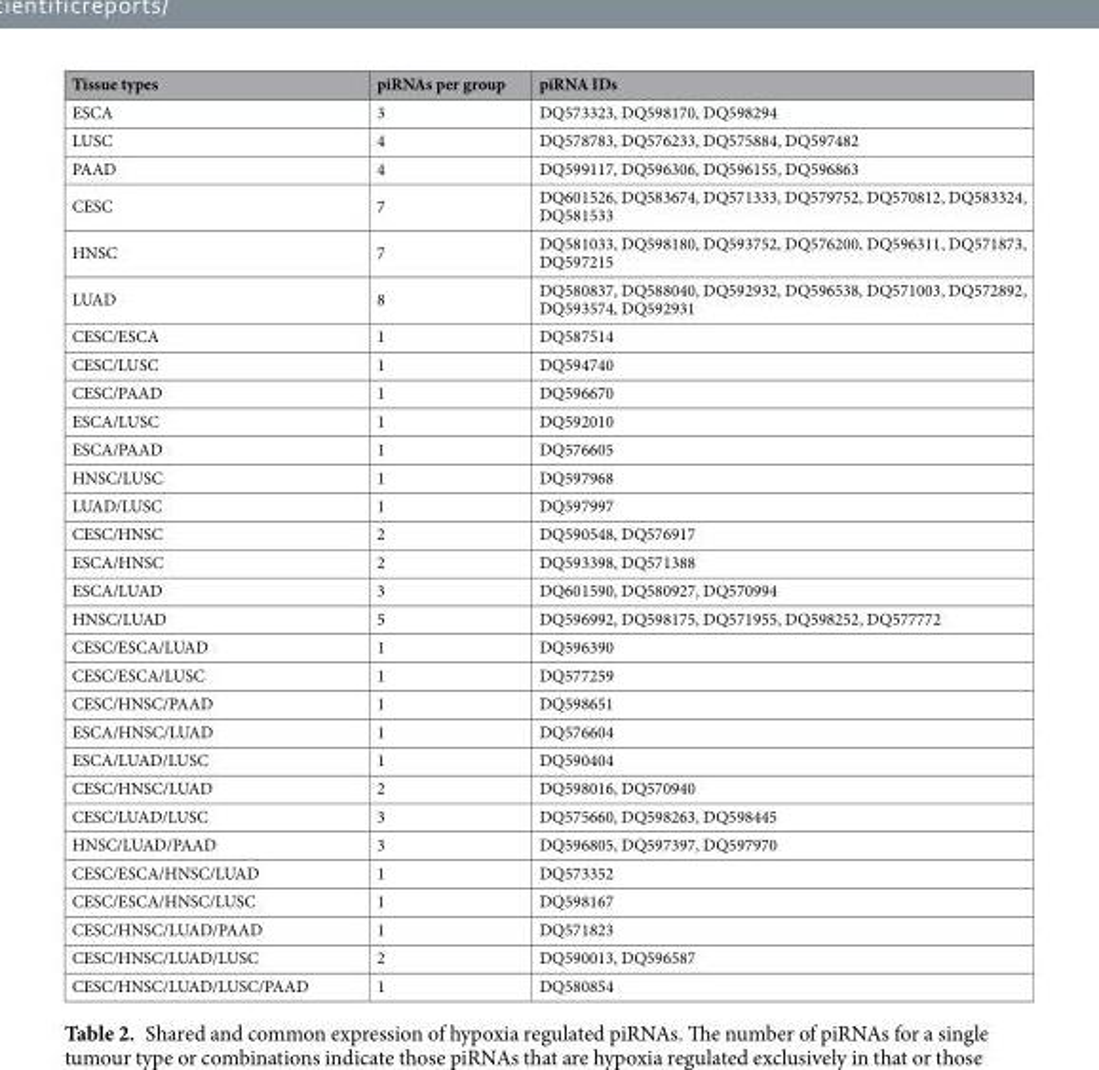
<table><thead><tr><td>Tissue types</td><td>piRNAs per group</td><td>piRNA IDs</td></tr></thead><tbody><tr><td>ESCA</td><td>3</td><td>DQ573323, DQ598170, DQ598294</td></tr><tr><td>LUSC</td><td>4</td><td>DQ578783, DQ576233, DQ575884, DQ597482</td></tr><tr><td>PAAD</td><td>4</td><td>DQ599117, DQ596306, DQ596155, DQ596863</td></tr><tr><td>CESC</td><td>7</td><td>DQ601526, DQ583674, DQ571333, DQ579752, DQ570812, DQ583324, DQ581533</td></tr><tr><td>HNSC</td><td>7</td><td>DQ581033, DQ598180, DQ593752, DQ576200, DQ596311, DQ571873, DQ597215</td></tr><tr><td>LUAD</td><td>8</td><td>DQ580837, DQ588040, DQ592932, DQ596538, DQ571003, DQ572892, DQ593574, DQ592931</td></tr><tr><td>CESC/ESCA</td><td>1</td><td>DQ587514</td></tr><tr><td>CESC/LUSC</td><td>1</td><td>DQ594740</td></tr><tr><td>CESC/PAAD</td><td>1</td><td>DQ596670</td></tr><tr><td>ESCA/LUSC</td><td>1</td><td>DQ592010</td></tr><tr><td>ESCA/PAAD</td><td>1</td><td>DQ576605</td></tr><tr><td>HNSC/LUSC</td><td>1</td><td>DQ597968</td></tr><tr><td>LUAD/LUSC</td><td>1</td><td>DQ597997</td></tr><tr><td>CESC/HNSC</td><td>2</td><td>DQ590548, DQ576917</td></tr><tr><td>ESCA/HNSC</td><td>2</td><td>DQ593398, DQ571388</td></tr><tr><td>ESCA/LUAD</td><td>3</td><td>DQ601590, DQ580927, DQ570994</td></tr><tr><td>HNSC/LUAD</td><td>5</td><td>DQ596992, DQ598175, DQ571955, DQ598252, DQ577772</td></tr><tr><td>CESC/ESCA/LUAD</td><td>1</td><td>DQ596390</td></tr><tr><td>CESC/ESCA/LUSC</td><td>1</td><td>DQ577259</td></tr><tr><td>CESC/HNSC/PAAD</td><td>1</td><td>DQ598651</td></tr><tr><td>ESCA/HNSC/LUAD</td><td>1</td><td>DQ576604</td></tr><tr><td>ESCA/LUAD/LUSC</td><td>1</td><td>DQ590404</td></tr><tr><td>CESC/HNSC/LUAD</td><td>2</td><td>DQ598016, DQ570940</td></tr><tr><td>CESC/LUAD/LUSC</td><td>3</td><td>DQ575660, DQ598263, DQ598445</td></tr><tr><td>HNSC/LUAD/PAAD</td><td>3</td><td>DQ596805, DQ597397, DQ597970</td></tr><tr><td>CESC/ESCA/HNSC/LUAD</td><td>1</td><td>DQ573352</td></tr><tr><td>CESC/ESCA/HNSC/LUSC</td><td>1</td><td>DQ598167</td></tr><tr><td>CESC/HNSC/LUAD/PAAD</td><td>1</td><td>DQ571823</td></tr><tr><td>CESC/HNSC/LUAD/LUSC</td><td>2</td><td>DQ590013, DQ596587</td></tr><tr><td>CESC/HNSC/LUAD/LUSC/PAAD</td><td>1</td><td>DQ580854</td></tr></tbody></table>